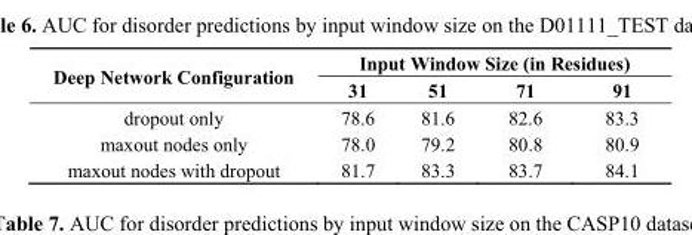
<table><thead><tr><td rowspan="2">Deep Network Configuration</td><td colspan="4">Input Window Size (in Residues)</td></tr><tr><td>31</td><td>51</td><td>71</td><td>91</td></tr></thead><tbody><tr><td>dropout only</td><td>78.6</td><td>81.6</td><td>82.6</td><td>83.3</td></tr><tr><td>maxout nodes only</td><td>78.0</td><td>79.2</td><td>80.8</td><td>80.9</td></tr><tr><td>maxout nodes with dropout</td><td>81.7</td><td>83.3</td><td>83.7</td><td>84.1</td></tr></tbody></table>